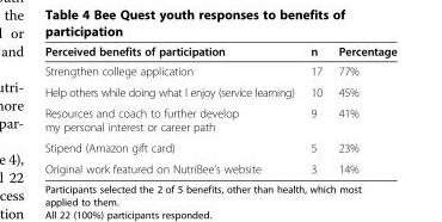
<table><thead><tr><td>Perceived benefits of participation</td><td>n</td><td>Percentage</td></tr></thead><tbody><tr><td>Strengthen college application</td><td>17</td><td>77%</td></tr><tr><td>Help others while doing what I enjoy (service learning)</td><td>10</td><td>45%</td></tr><tr><td>Resources and coach to further develop my personal interest or career path</td><td>9</td><td>41%</td></tr><tr><td>Stipend (Amazon gift card)</td><td>5</td><td>23%</td></tr><tr><td>Original work featured on NutriBee’s website</td><td>3</td><td>14%</td></tr></tbody></table>